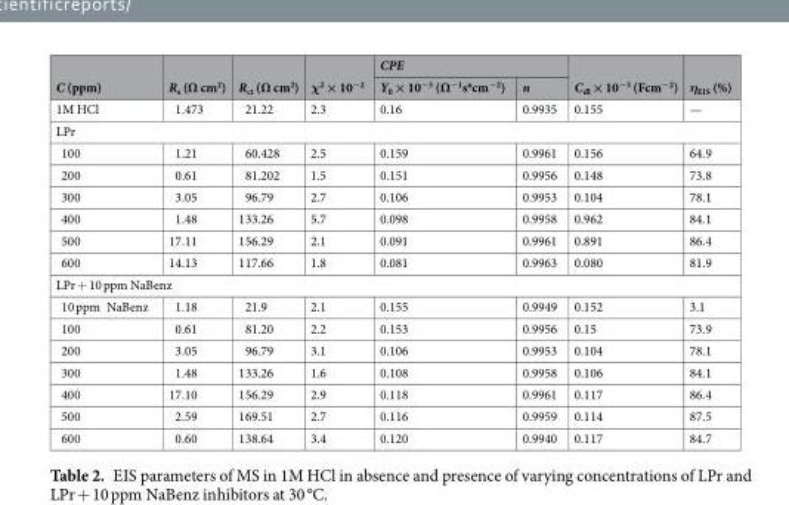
<table><thead><tr><td rowspan="2">C (ppm)</td><td rowspan="2">R<sub>s</sub> (Ω cm<sup>2</sup>)</td><td rowspan="2">R<sub>ct</sub> (Ω cm<sup>2</sup>)</td><td rowspan="2">χ<sup>2</sup> × 10<sup>−2</sup></td><td colspan="2">CPE</td><td rowspan="2">C<sub>dl</sub> × 10<sup>−3</sup> (Fcm<sup>−2</sup>)</td><td rowspan="2">η<sub>EIS</sub> (%)</td></tr><tr><td>Y<sub>0</sub> × 10<sup>−3</sup> (Ω<sup>−1</sup>s<sup>n</sup>cm<sup>−2</sup>)</td><td>n</td></tr></thead><tbody><tr><td>1M HCl</td><td>1.473</td><td>21.22</td><td>2.3</td><td>0.16</td><td>0.9935</td><td>0.155</td><td>—</td></tr><tr><td colspan="8">LPr</td></tr><tr><td>100</td><td>1.21</td><td>60.428</td><td>2.5</td><td>0.159</td><td>0.9961</td><td>0.156</td><td>64.9</td></tr><tr><td>200</td><td>0.61</td><td>81.202</td><td>1.5</td><td>0.151</td><td>0.9956</td><td>0.148</td><td>73.8</td></tr><tr><td>300</td><td>3.05</td><td>96.79</td><td>2.7</td><td>0.106</td><td>0.9953</td><td>0.104</td><td>78.1</td></tr><tr><td>400</td><td>1.48</td><td>133.26</td><td>5.7</td><td>0.098</td><td>0.9958</td><td>0.962</td><td>84.1</td></tr><tr><td>500</td><td>17.11</td><td>156.29</td><td>2.1</td><td>0.091</td><td>0.9961</td><td>0.891</td><td>86.4</td></tr><tr><td>600</td><td>14.13</td><td>117.66</td><td>1.8</td><td>0.081</td><td>0.9963</td><td>0.080</td><td>81.9</td></tr><tr><td colspan="8">LPr + 10 ppm NaBenz</td></tr><tr><td>10 ppm NaBenz</td><td>1.18</td><td>21.9</td><td>2.1</td><td>0.155</td><td>0.9949</td><td>0.152</td><td>3.1</td></tr><tr><td>100</td><td>0.61</td><td>81.20</td><td>2.2</td><td>0.153</td><td>0.9956</td><td>0.15</td><td>73.9</td></tr><tr><td>200</td><td>3.05</td><td>96.79</td><td>3.1</td><td>0.106</td><td>0.9953</td><td>0.104</td><td>78.1</td></tr><tr><td>300</td><td>1.48</td><td>133.26</td><td>1.6</td><td>0.108</td><td>0.9958</td><td>0.106</td><td>84.1</td></tr><tr><td>400</td><td>17.10</td><td>156.29</td><td>2.9</td><td>0.118</td><td>0.9961</td><td>0.117</td><td>86.4</td></tr><tr><td>500</td><td>2.59</td><td>169.51</td><td>2.7</td><td>0.116</td><td>0.9959</td><td>0.114</td><td>87.5</td></tr><tr><td>600</td><td>0.60</td><td>138.64</td><td>3.4</td><td>0.120</td><td>0.9940</td><td>0.117</td><td>84.7</td></tr></tbody></table>